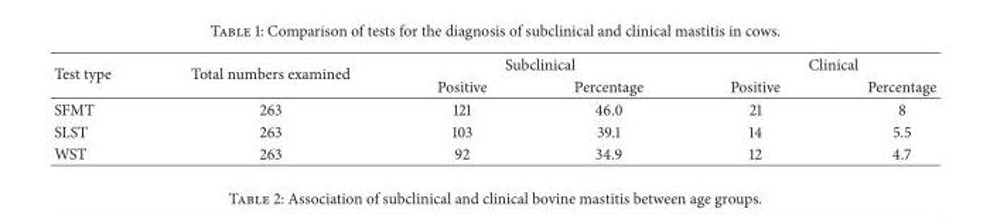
<table><thead><tr><td rowspan="2">Test type</td><td rowspan="2">Total numbers examined</td><td colspan="2">Subclinical</td><td colspan="2">Clinical</td></tr><tr><td>Positive</td><td>Percentage</td><td>Positive</td><td>Percentage</td></tr></thead><tbody><tr><td>SFMT</td><td>263</td><td>121</td><td>46.0</td><td>21</td><td>8</td></tr><tr><td>SLST</td><td>263</td><td>103</td><td>39.1</td><td>14</td><td>5.5</td></tr><tr><td>WST</td><td>263</td><td>92</td><td>34.9</td><td>12</td><td>4.7</td></tr></tbody></table>